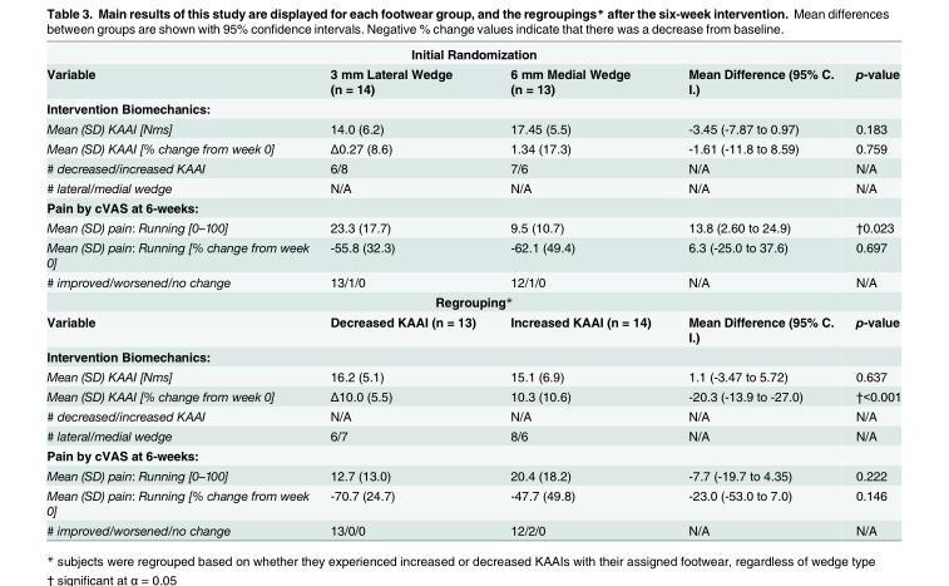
<table><tbody><tr><td colspan="5">Initial Randomization</td></tr><tr><td>Variable</td><td>3 mm Lateral Wedge (n = 14)</td><td>6 mm Medial Wedge (n = 13)</td><td>Mean Difference (95% C. I.)</td><td>p-value</td></tr><tr><td colspan="5">Intervention Biomechanics:</td></tr><tr><td>Mean (SD) KAAI [Nms]</td><td>14.0 (6.2)</td><td>17.45 (5.5)</td><td>-3.45 (-7.87 to 0.97)</td><td>0.183</td></tr><tr><td>Mean (SD) KAAI [% change from week 0]</td><td>Δ0.27 (8.6)</td><td>1.34 (17.3)</td><td>-1.61 (-11.8 to 8.59)</td><td>0.759</td></tr><tr><td># decreased/increased KAAI</td><td>6/8</td><td>7/6</td><td>N/A</td><td>N/A</td></tr><tr><td># lateral/medial wedge</td><td>N/A</td><td>N/A</td><td>N/A</td><td>N/A</td></tr><tr><td colspan="5">Pain by cVAS at 6-weeks:</td></tr><tr><td>Mean (SD) pain: Running [0–100]</td><td>23.3 (17.7)</td><td>9.5 (10.7)</td><td>13.8 (2.60 to 24.9)</td><td>†0.023</td></tr><tr><td>Mean (SD) pain: Running [% change from week 0]</td><td>-55.8 (32.3)</td><td>-62.1 (49.4)</td><td>6.3 (-25.0 to 37.6)</td><td>0.697</td></tr><tr><td># improved/worsened/no change</td><td>13/1/0</td><td>12/1/0</td><td>N/A</td><td>N/A</td></tr><tr><td colspan="5">Regrouping*</td></tr><tr><td>Variable</td><td>Decreased KAAI (n = 13)</td><td>Increased KAAI (n = 14)</td><td>Mean Difference (95% C. I.)</td><td>p-value</td></tr><tr><td colspan="5">Intervention Biomechanics:</td></tr><tr><td>Mean (SD) KAAI [Nms]</td><td>16.2 (5.1)</td><td>15.1 (6.9)</td><td>1.1 (-3.47 to 5.72)</td><td>0.637</td></tr><tr><td>Mean (SD) KAAI [% change from week 0]</td><td>Δ10.0 (5.5)</td><td>10.3 (10.6)</td><td>-20.3 (-13.9 to -27.0)</td><td>†&lt;0.001</td></tr><tr><td># decreased/increased KAAI</td><td>N/A</td><td>N/A</td><td>N/A</td><td>N/A</td></tr><tr><td># lateral/medial wedge</td><td>6/7</td><td>8/6</td><td>N/A</td><td>N/A</td></tr><tr><td colspan="5">Pain by cVAS at 6-weeks:</td></tr><tr><td>Mean (SD) pain: Running [0–100]</td><td>12.7 (13.0)</td><td>20.4 (18.2)</td><td>-7.7 (-19.7 to 4.35)</td><td>0.222</td></tr><tr><td>Mean (SD) pain: Running [% change from week 0]</td><td>-70.7 (24.7)</td><td>-47.7 (49.8)</td><td>-23.0 (-53.0 to 7.0)</td><td>0.146</td></tr><tr><td># improved/worsened/no change</td><td>13/0/0</td><td>12/2/0</td><td>N/A</td><td>N/A</td></tr></tbody></table>